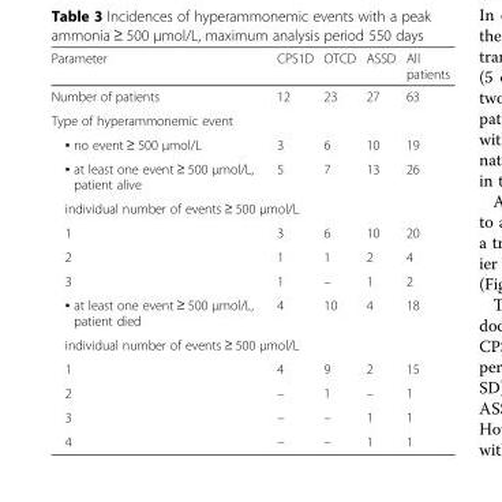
<table><thead><tr><td>Parameter</td><td>CPS1D</td><td>OTCD</td><td>ASSD</td><td>All patients</td></tr></thead><tbody><tr><td>Number of patients</td><td>12</td><td>23</td><td>27</td><td>63</td></tr><tr><td colspan="5">Type of hyperammonemic event</td></tr><tr><td>▪ no event ≥ 500 μmol/L</td><td>3</td><td>6</td><td>10</td><td>19</td></tr><tr><td>▪ at least one event ≥ 500 μmol/L, patient alive</td><td>5</td><td>7</td><td>13</td><td>26</td></tr><tr><td colspan="5">individual number of events ≥ 500 μmol/L</td></tr><tr><td>1</td><td>3</td><td>6</td><td>10</td><td>20</td></tr><tr><td>2</td><td>1</td><td>1</td><td>2</td><td>4</td></tr><tr><td>3</td><td>1</td><td>–</td><td>1</td><td>2</td></tr><tr><td>▪ at least one event ≥ 500 μmol/L, patient died</td><td>4</td><td>10</td><td>4</td><td>18</td></tr><tr><td colspan="5">individual number of events ≥ 500 μmol/L</td></tr><tr><td>1</td><td>4</td><td>9</td><td>2</td><td>15</td></tr><tr><td>2</td><td>–</td><td>1</td><td>–</td><td>1</td></tr><tr><td>3</td><td>–</td><td>–</td><td>1</td><td>1</td></tr><tr><td>4</td><td>–</td><td>–</td><td>1</td><td>1</td></tr></tbody></table>